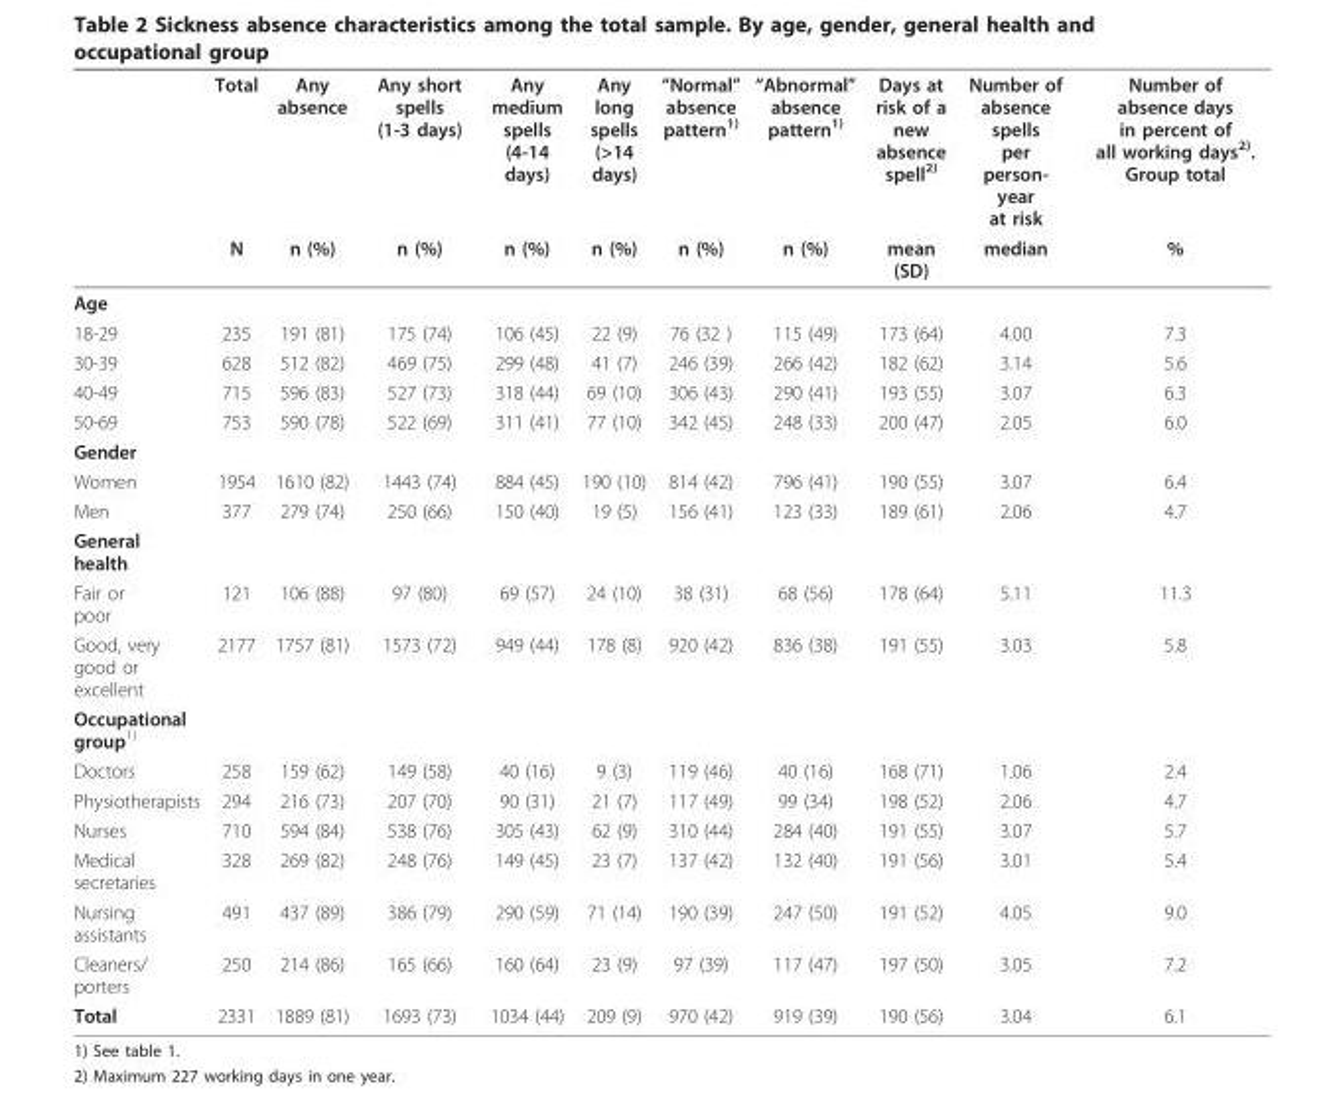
<table><thead><tr><td rowspan="2"></td><td rowspan="2">Total N</td><td rowspan="2">Any absence n (%)</td><td rowspan="2">Any short spells (1-3 days) n (%)</td><td rowspan="2">Any medium spells (4-14 days) n (%)</td><td rowspan="2">Any long spells (&gt;14 days) n (%)</td><td rowspan="2">“Normal” absence pattern1) n (%)</td><td rowspan="2">“Abnormal” absence pattern1) n (%)</td><td rowspan="2">Days at risk of a new absence spell<sup>2)</sup> mean (SD)</td><td rowspan="2">Number of absence spells per person- year at risk median</td><td rowspan="2">Number of absence days in percent of all working days<sup>2)</sup>. Group total %</td></tr><tr></tr></thead><tbody><tr><td colspan="11">Age</td></tr><tr><td>18-29</td><td>235</td><td>191 (81)</td><td>175 (74)</td><td>106 (45)</td><td>22 (9)</td><td>76 (32 )</td><td>115 (49)</td><td>173 (64)</td><td>4.00</td><td>7.3</td></tr><tr><td>30-39</td><td>628</td><td>512 (82)</td><td>469 (75)</td><td>299 (48)</td><td>41 (7)</td><td>246 (39)</td><td>266 (42)</td><td>182 (62)</td><td>3.14</td><td>5.6</td></tr><tr><td>40-49</td><td>715</td><td>596 (83)</td><td>527 (73)</td><td>318 (44)</td><td>69 (10)</td><td>306 (43)</td><td>290 (41)</td><td>193 (55)</td><td>3.07</td><td>6.3</td></tr><tr><td>50-69</td><td>753</td><td>590 (78)</td><td>522 (69)</td><td>311 (41)</td><td>77 (10)</td><td>342 (45)</td><td>248 (33)</td><td>200 (47)</td><td>2.05</td><td>6.0</td></tr><tr><td colspan="11">Gender</td></tr><tr><td>Women</td><td>1954</td><td>1610 (82)</td><td>1443 (74)</td><td>884 (45)</td><td>190 (10)</td><td>814 (42)</td><td>796 (41)</td><td>190 (55)</td><td>3.07</td><td>6.4</td></tr><tr><td>Men</td><td>377</td><td>279 (74)</td><td>250 (66)</td><td>150 (40)</td><td>19 (5)</td><td>156 (41)</td><td>123 (33)</td><td>189 (61)</td><td>2.06</td><td>4.7</td></tr><tr><td colspan="11">General health</td></tr><tr><td>Fair or poor</td><td>121</td><td>106 (88)</td><td>97 (80)</td><td>69 (57)</td><td>24 (10)</td><td>38 (31)</td><td>68 (56)</td><td>178 (64)</td><td>5.11</td><td>11.3</td></tr><tr><td>Good, very good or excellent</td><td>2177</td><td>1757 (81)</td><td>1573 (72)</td><td>949 (44)</td><td>178 (8)</td><td>920 (42)</td><td>836 (38)</td><td>191 (55)</td><td>3.03</td><td>5.8</td></tr><tr><td colspan="11">Occupational group<sup>1)</sup></td></tr><tr><td>Doctors</td><td>258</td><td>159 (62)</td><td>149 (58)</td><td>40 (16)</td><td>9 (3)</td><td>119 (46)</td><td>40 (16)</td><td>168 (71)</td><td>1.06</td><td>2.4</td></tr><tr><td>Physiotherapists</td><td>294</td><td>216 (73)</td><td>207 (70)</td><td>90 (31)</td><td>21 (7)</td><td>117 (49)</td><td>99 (34)</td><td>198 (52)</td><td>2.06</td><td>4.7</td></tr><tr><td>Nurses</td><td>710</td><td>594 (84)</td><td>538 (76)</td><td>305 (43)</td><td>62 (9)</td><td>310 (44)</td><td>284 (40)</td><td>191 (55)</td><td>3.07</td><td>5.7</td></tr><tr><td>Medical secretaries</td><td>328</td><td>269 (82)</td><td>248 (76)</td><td>149 (45)</td><td>23 (7)</td><td>137 (42)</td><td>132 (40)</td><td>191 (56)</td><td>3.01</td><td>5.4</td></tr><tr><td>Nursing assistants</td><td>491</td><td>437 (89)</td><td>386 (79)</td><td>290 (59)</td><td>71 (14)</td><td>190 (39)</td><td>247 (50)</td><td>191 (52)</td><td>4.05</td><td>9.0</td></tr><tr><td>Cleaners/ porters</td><td>250</td><td>214 (86)</td><td>165 (66)</td><td>160 (64)</td><td>23 (9)</td><td>97 (39)</td><td>117 (47)</td><td>197 (50)</td><td>3.05</td><td>7.2</td></tr><tr><td>Total</td><td>2331</td><td>1889 (81)</td><td>1693 (73)</td><td>1034 (44)</td><td>209 (9)</td><td>970 (42)</td><td>919 (39)</td><td>190 (56)</td><td>3.04</td><td>6.1</td></tr></tbody></table>